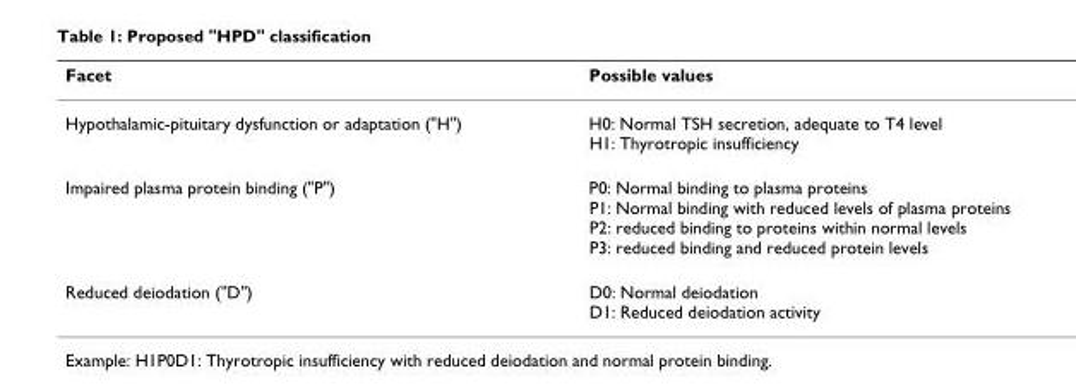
<table><thead><tr><td>Facet</td><td>Possible values</td></tr></thead><tbody><tr><td>Hypothalamic-pituitary dysfunction or adaptation (&quot;H&quot;)</td><td>H0: Normal TSH secretion, adequate to T4 level H1: Thyrotropic insufficiency</td></tr><tr><td>Impaired plasma protein binding (&quot;P&quot;)</td><td>P0: Normal binding to plasma proteins P1: Normal binding with reduced levels of plasma proteins P2: reduced binding to proteins within normal levels P3: reduced binding and reduced protein levels</td></tr><tr><td>Reduced deiodation (&quot;D&quot;)</td><td>D0: Normal deiodation D1: Reduced deiodation activity</td></tr></tbody></table>